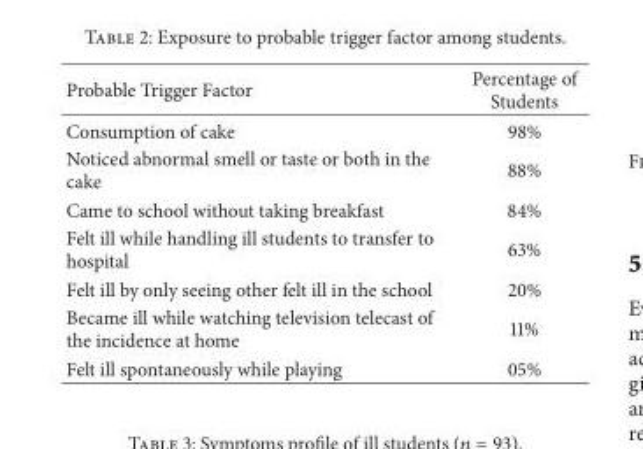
<table><thead><tr><td>Probable Trigger Factor</td><td>Percentage of Students</td></tr></thead><tbody><tr><td>Consumption of cake</td><td>98%</td></tr><tr><td>Noticed abnormal smell or taste or both in the cake</td><td>88%</td></tr><tr><td>Came to school without taking breakfast</td><td>84%</td></tr><tr><td>Felt ill while handling ill students to transfer to hospital</td><td>63%</td></tr><tr><td>Felt ill by only seeing other felt ill in the school</td><td>20%</td></tr><tr><td>Became ill while watching television telecast of the incidence at home</td><td>11%</td></tr><tr><td>Felt ill spontaneously while playing</td><td>05%</td></tr></tbody></table>